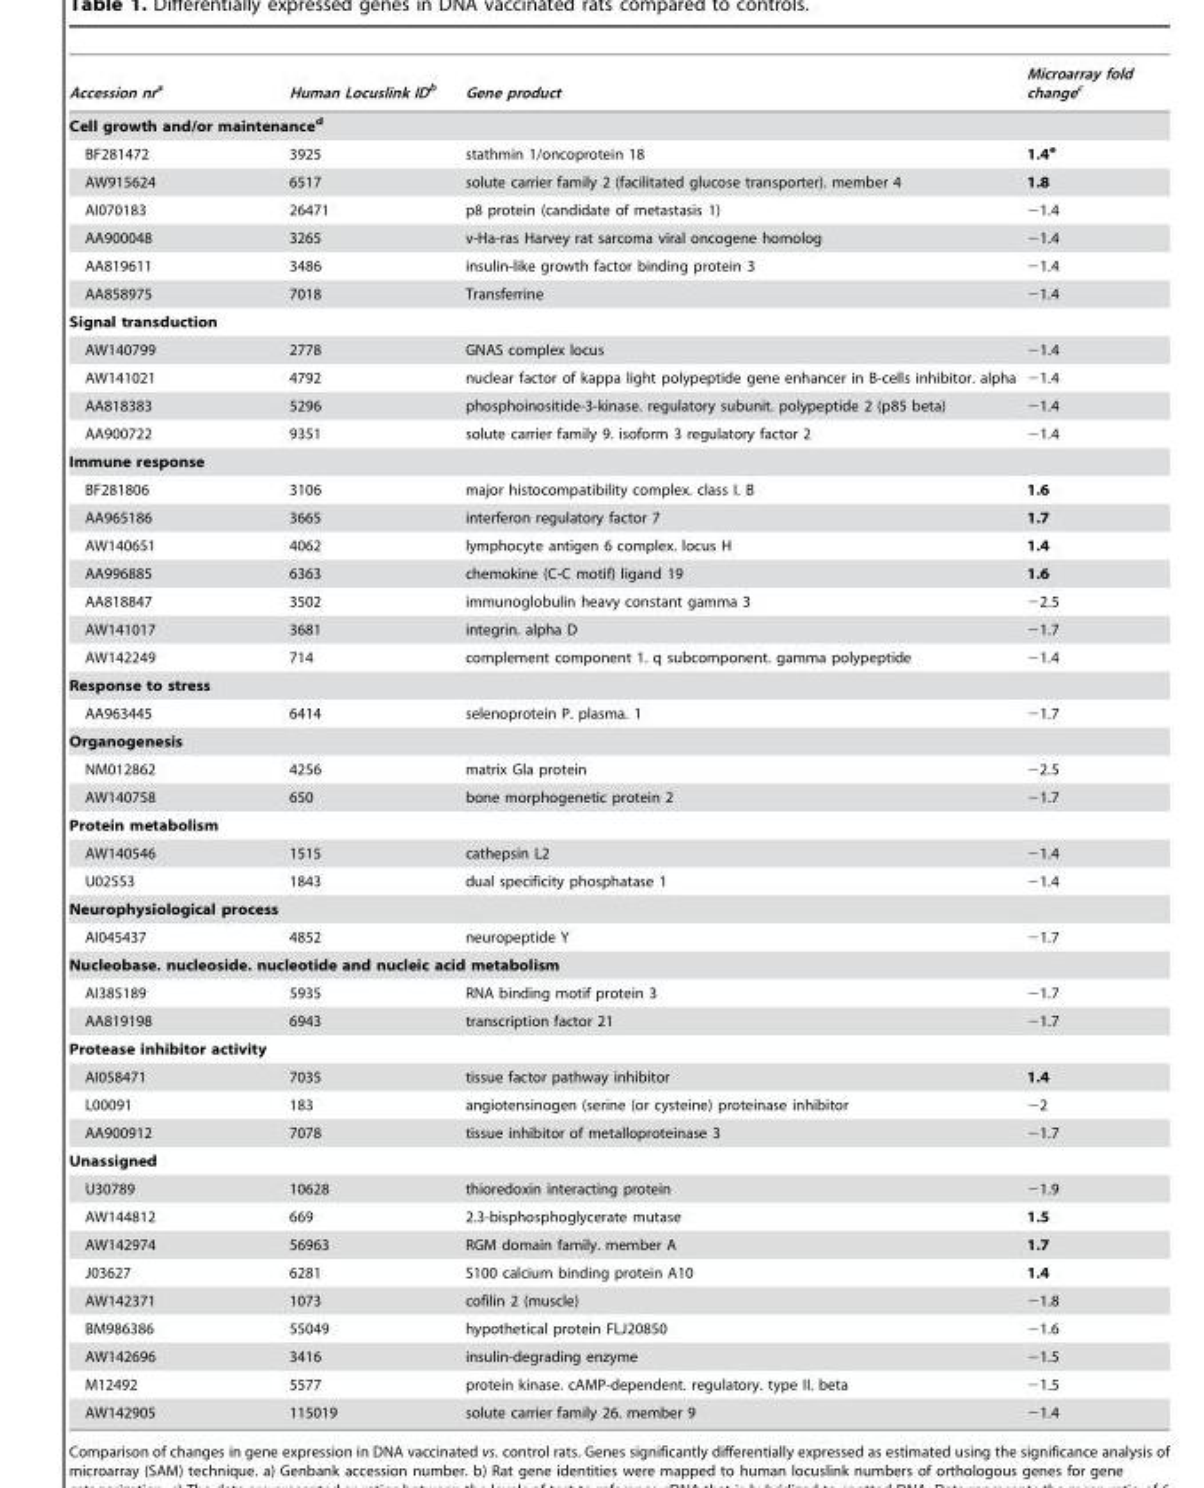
<table><thead><tr><td>Accession nr<sup>a</sup></td><td>Human Locuslink ID<sup>b</sup></td><td>Gene product</td><td>Microarray fold change<sup>c</sup></td></tr></thead><tbody><tr><td colspan="4">Cell growth and/or maintenance<sup>d</sup></td></tr><tr><td>BF281472</td><td>3925</td><td>stathmin 1/oncoprotein 18</td><td>1.4<sup>e</sup></td></tr><tr><td>AW915624</td><td>6517</td><td>solute carrier family 2 (facilitated glucose transporter). member 4</td><td>1.8</td></tr><tr><td>AI070183</td><td>26471</td><td>p8 protein (candidate of metastasis 1)</td><td>−1.4</td></tr><tr><td>AA900048</td><td>3265</td><td>v-Ha-ras Harvey rat sarcoma viral oncogene homolog</td><td>−1.4</td></tr><tr><td>AA819611</td><td>3486</td><td>insulin-like growth factor binding protein 3</td><td>−1.4</td></tr><tr><td>AA858975</td><td>7018</td><td>Transferrine</td><td>−1.4</td></tr><tr><td colspan="4">Signal transduction</td></tr><tr><td>AW140799</td><td>2778</td><td>GNAS complex locus</td><td>−1.4</td></tr><tr><td>AW141021</td><td>4792</td><td>nuclear factor of kappa light polypeptide gene enhancer in B-cells inhibitor. alpha</td><td>−1.4</td></tr><tr><td>AA818383</td><td>5296</td><td>phosphoinositide-3-kinase. regulatory subunit. polypeptide 2 (p85 beta)</td><td>−1.4</td></tr><tr><td>AA900722</td><td>9351</td><td>solute carrier family 9. isoform 3 regulatory factor 2</td><td>−1.4</td></tr><tr><td colspan="4">Immune response</td></tr><tr><td>BF281806</td><td>3106</td><td>major histocompatibility complex. class I. B</td><td>1.6</td></tr><tr><td>AA965186</td><td>3665</td><td>interferon regulatory factor 7</td><td>1.7</td></tr><tr><td>AW140651</td><td>4062</td><td>lymphocyte antigen 6 complex. locus H</td><td>1.4</td></tr><tr><td>AA996885</td><td>6363</td><td>chemokine (C-C motif) ligand 19</td><td>1.6</td></tr><tr><td>AA818847</td><td>3502</td><td>immunoglobulin heavy constant gamma 3</td><td>−2.5</td></tr><tr><td>AW141017</td><td>3681</td><td>integrin. alpha D</td><td>−1.7</td></tr><tr><td>AW142249</td><td>714</td><td>complement component 1. q subcomponent. gamma polypeptide</td><td>−1.4</td></tr><tr><td colspan="4">Response to stress</td></tr><tr><td>AA963445</td><td>6414</td><td>selenoprotein P. plasma. 1</td><td>−1.7</td></tr><tr><td colspan="4">Organogenesis</td></tr><tr><td>NM012862</td><td>4256</td><td>matrix Gla protein</td><td>−2.5</td></tr><tr><td>AW140758</td><td>650</td><td>bone morphogenetic protein 2</td><td>−1.7</td></tr><tr><td colspan="4">Protein metabolism</td></tr><tr><td>AW140546</td><td>1515</td><td>cathepsin L2</td><td>−1.4</td></tr><tr><td>U02553</td><td>1843</td><td>dual specificity phosphatase 1</td><td>−1.4</td></tr><tr><td colspan="4">Neurophysiological process</td></tr><tr><td>AI045437</td><td>4852</td><td>neuropeptide Y</td><td>−1.7</td></tr><tr><td colspan="4">Nucleobase. nucleoside. nucleotide and nucleic acid metabolism</td></tr><tr><td>AI385189</td><td>5935</td><td>RNA binding motif protein 3</td><td>−1.7</td></tr><tr><td>AA819198</td><td>6943</td><td>transcription factor 21</td><td>−1.7</td></tr><tr><td colspan="4">Protease inhibitor activity</td></tr><tr><td>AI058471</td><td>7035</td><td>tissue factor pathway inhibitor</td><td>1.4</td></tr><tr><td>L00091</td><td>183</td><td>angiotensinogen (serine (or cysteine) proteinase inhibitor</td><td>−2</td></tr><tr><td>AA900912</td><td>7078</td><td>tissue inhibitor of metalloproteinase 3</td><td>−1.7</td></tr><tr><td colspan="4">Unassigned</td></tr><tr><td>U30789</td><td>10628</td><td>thioredoxin interacting protein</td><td>−1.9</td></tr><tr><td>AW144812</td><td>669</td><td>2.3-bisphosphoglycerate mutase</td><td>1.5</td></tr><tr><td>AW142974</td><td>56963</td><td>RGM domain family. member A</td><td>1.7</td></tr><tr><td>J03627</td><td>6281</td><td>S100 calcium binding protein A10</td><td>1.4</td></tr><tr><td>AW142371</td><td>1073</td><td>cofilin 2 (muscle)</td><td>−1.8</td></tr><tr><td>BM986386</td><td>55049</td><td>hypothetical protein FLJ20850</td><td>−1.6</td></tr><tr><td>AW142696</td><td>3416</td><td>insulin-degrading enzyme</td><td>−1.5</td></tr><tr><td>M12492</td><td>5577</td><td>protein kinase. cAMP-dependent. regulatory. type II. beta</td><td>−1.5</td></tr><tr><td>AW142905</td><td>115019</td><td>solute carrier family 26. member 9</td><td>−1.4</td></tr></tbody></table>